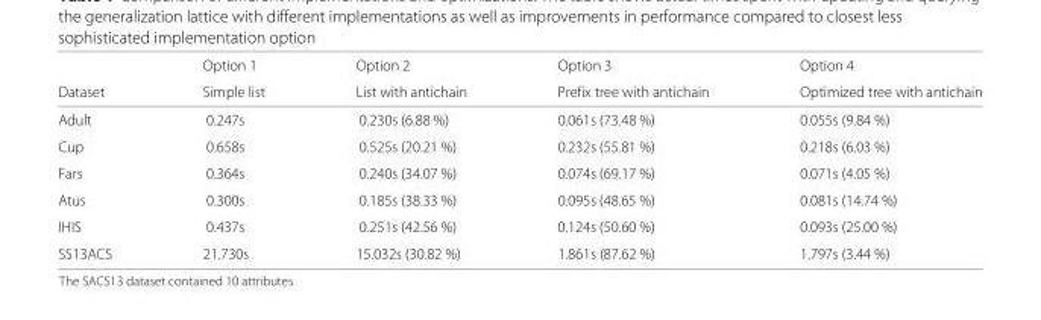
<table><thead><tr><td rowspan="2">Dataset</td><td rowspan="2">Option 1 Simple list</td><td rowspan="2">Option 2 List with antichain</td><td rowspan="2">Option 3 Prefix tree with antichain</td><td rowspan="2">Option 4 Optimized tree with antichain</td></tr><tr></tr></thead><tbody><tr><td>Adult</td><td>0.247s</td><td>0.230s (6.88 %)</td><td>0.061s (73.48 %)</td><td>0.055s (9.84 %)</td></tr><tr><td>Cup</td><td>0.658s</td><td>0.525s (20.21 %)</td><td>0.232s (55.81 %)</td><td>0.218s (6.03 %)</td></tr><tr><td>Fars</td><td>0.364s</td><td>0.240s (34.07 %)</td><td>0.074s (69.17 %)</td><td>0.071s (4.05 %)</td></tr><tr><td>Atus</td><td>0.300s</td><td>0.185s (38.33 %)</td><td>0.095s (48.65 %)</td><td>0.081s (14.74 %)</td></tr><tr><td>IHIS</td><td>0.437s</td><td>0.251s (42.56 %)</td><td>0.124s (50.60 %)</td><td>0.093s (25.00 %)</td></tr><tr><td>SS13ACS</td><td>21.730s</td><td>15.032s (30.82 %)</td><td>1.861s (87.62 %)</td><td>1.797s (3.44 %)</td></tr></tbody></table>